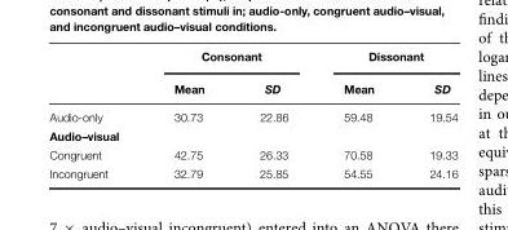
<table><thead><tr><td rowspan="2"></td><td colspan="2">Consonant</td><td colspan="2">Dissonant</td></tr><tr><td>Mean</td><td>SD</td><td>Mean</td><td>SD</td></tr></thead><tbody><tr><td>Audio-only</td><td>30.73</td><td>22.86</td><td>59.48</td><td>19.54</td></tr><tr><td colspan="5">Audio–visual</td></tr><tr><td>Congruent</td><td>42.75</td><td>26.33</td><td>70.58</td><td>19.33</td></tr><tr><td>Incongruent</td><td>32.79</td><td>25.85</td><td>54.55</td><td>24.16</td></tr></tbody></table>